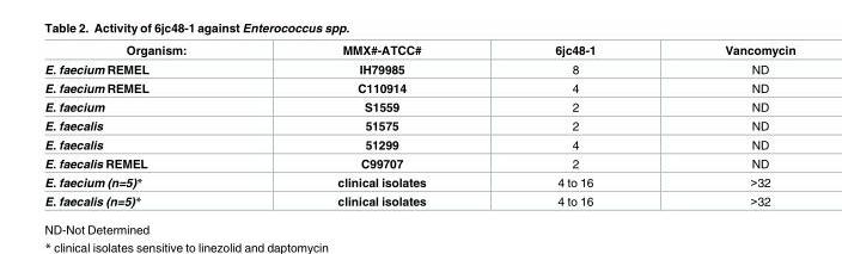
<table><thead><tr><td>Organism:</td><td>MMX#-ATCC#</td><td>6jc48-1</td><td>Vancomycin</td></tr></thead><tbody><tr><td>E. faecium REMEL</td><td>IH79985</td><td>8</td><td>ND</td></tr><tr><td>E. faecium REMEL</td><td>C110914</td><td>4</td><td>ND</td></tr><tr><td>E. faecium</td><td>S1559</td><td>2</td><td>ND</td></tr><tr><td>E. faecalis</td><td>51575</td><td>2</td><td>ND</td></tr><tr><td>E. faecalis</td><td>51299</td><td>4</td><td>ND</td></tr><tr><td>E. faecalis REMEL</td><td>C99707</td><td>2</td><td>ND</td></tr><tr><td>E. faecium (n=5)*</td><td>clinical isolates</td><td>4 to 16</td><td>&gt;32</td></tr><tr><td>E. faecalis (n=5)*</td><td>clinical isolates</td><td>4 to 16</td><td>&gt;32</td></tr></tbody></table>